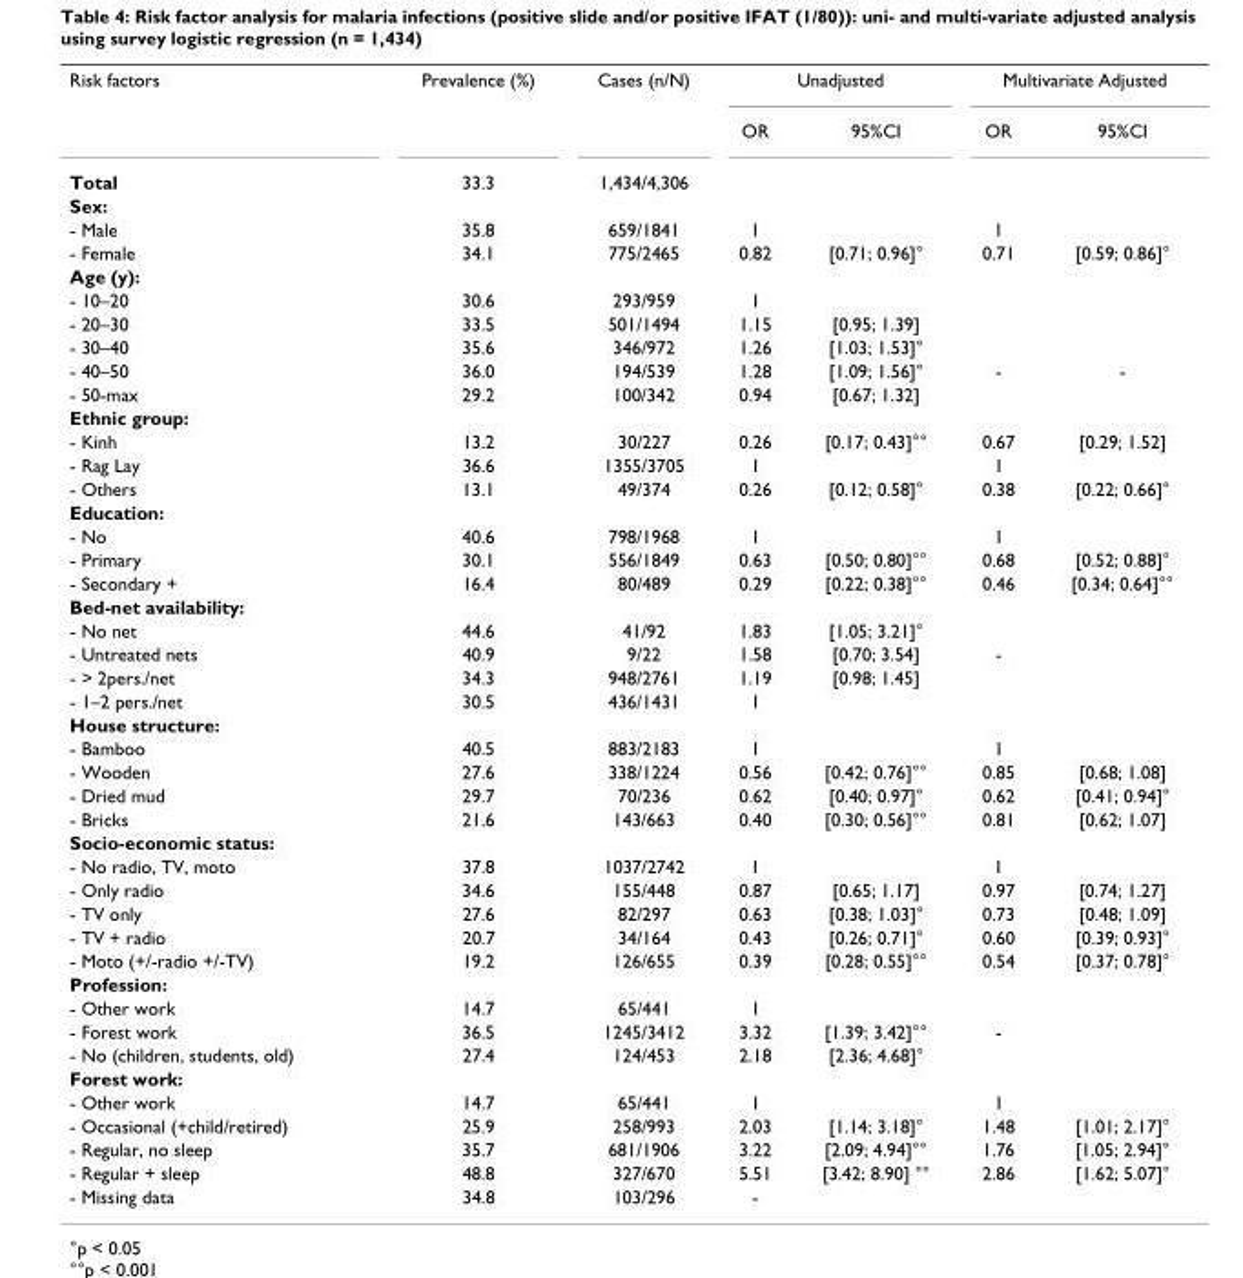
<table><tbody><tr><td rowspan="2">Risk factors</td><td>Prevalence (%)</td><td>Cases (n/N)</td><td colspan="2">Unadjusted</td><td colspan="2">Multivariate Adjusted</td></tr><tr><td></td><td></td><td>OR</td><td>95%CI</td><td>OR</td><td>95%CI</td></tr><tr><td>Total</td><td>33.3</td><td>1,434/4,306</td><td></td><td></td><td></td><td></td></tr><tr><td colspan="7">Sex:</td></tr><tr><td>- Male</td><td>35.8</td><td>659/1841</td><td>1</td><td></td><td>1</td><td></td></tr><tr><td>- Female</td><td>34.1</td><td>775/2465</td><td>0.82</td><td>[0.71; 0.96]°</td><td>0.71</td><td>[0.59; 0.86]°</td></tr><tr><td colspan="7">Age (y):</td></tr><tr><td>- 10–20</td><td>30.6</td><td>293/959</td><td>1</td><td></td><td></td><td></td></tr><tr><td>- 20–30</td><td>33.5</td><td>501/1494</td><td>1.15</td><td>[0.95; 1.39]</td><td></td><td></td></tr><tr><td>- 30–40</td><td>35.6</td><td>346/972</td><td>1.26</td><td>[1.03; 1.53]°</td><td></td><td></td></tr><tr><td>- 40–50</td><td>36.0</td><td>194/539</td><td>1.28</td><td>[1.09; 1.56]°</td><td>-</td><td>-</td></tr><tr><td>- 50-max</td><td>29.2</td><td>100/342</td><td>0.94</td><td>[0.67; 1.32]</td><td></td><td></td></tr><tr><td colspan="7">Ethnic group:</td></tr><tr><td>- Kinh</td><td>13.2</td><td>30/227</td><td>0.26</td><td>[0.17; 0.43]°°</td><td>0.67</td><td>[0.29; 1.52]</td></tr><tr><td>- Rag Lay</td><td>36.6</td><td>1355/3705</td><td>1</td><td></td><td>1</td><td></td></tr><tr><td>- Others</td><td>13.1</td><td>49/374</td><td>0.26</td><td>[0.12; 0.58]°</td><td>0.38</td><td>[0.22; 0.66]°</td></tr><tr><td colspan="7">Education:</td></tr><tr><td>- No</td><td>40.6</td><td>798/1968</td><td>1</td><td></td><td>1</td><td></td></tr><tr><td>- Primary</td><td>30.1</td><td>556/1849</td><td>0.63</td><td>[0.50; 0.80]°°</td><td>0.68</td><td>[0.52; 0.88]°</td></tr><tr><td>- Secondary +</td><td>16.4</td><td>80/489</td><td>0.29</td><td>[0.22; 0.38]°°</td><td>0.46</td><td>[0.34; 0.64]°°</td></tr><tr><td colspan="7">Bed-net availability:</td></tr><tr><td>- No net</td><td>44.6</td><td>41/92</td><td>1.83</td><td>[1.05; 3.21]°</td><td></td><td></td></tr><tr><td>- Untreated nets</td><td>40.9</td><td>9/22</td><td>1.58</td><td>[0.70; 3.54]</td><td>-</td><td></td></tr><tr><td>- &gt; 2pers./net</td><td>34.3</td><td>948/2761</td><td>1.19</td><td>[0.98; 1.45]</td><td></td><td></td></tr><tr><td>- 1–2 pers./net</td><td>30.5</td><td>436/1431</td><td>1</td><td></td><td></td><td></td></tr><tr><td colspan="7">House structure:</td></tr><tr><td>- Bamboo</td><td>40.5</td><td>883/2183</td><td>1</td><td></td><td>1</td><td></td></tr><tr><td>- Wooden</td><td>27.6</td><td>338/1224</td><td>0.56</td><td>[0.42; 0.76]°°</td><td>0.85</td><td>[0.68; 1.08]</td></tr><tr><td>- Dried mud</td><td>29.7</td><td>70/236</td><td>0.62</td><td>[0.40; 0.97]°</td><td>0.62</td><td>[0.41; 0.94]°</td></tr><tr><td>- Bricks</td><td>21.6</td><td>143/663</td><td>0.40</td><td>[0.30; 0.56]°°</td><td>0.81</td><td>[0.62; 1.07]</td></tr><tr><td colspan="7">Socio-economic status:</td></tr><tr><td>- No radio, TV, moto</td><td>37.8</td><td>1037/2742</td><td>1</td><td></td><td>1</td><td></td></tr><tr><td>- Only radio</td><td>34.6</td><td>155/448</td><td>0.87</td><td>[0.65; 1.17]</td><td>0.97</td><td>[0.74; 1.27]</td></tr><tr><td>- TV only</td><td>27.6</td><td>82/297</td><td>0.63</td><td>[0.38; 1.03]°</td><td>0.73</td><td>[0.48; 1.09]</td></tr><tr><td>- TV + radio</td><td>20.7</td><td>34/164</td><td>0.43</td><td>[0.26; 0.71]°</td><td>0.60</td><td>[0.39; 0.93]°</td></tr><tr><td>- Moto (+/-radio +/-TV)</td><td>19.2</td><td>126/655</td><td>0.39</td><td>[0.28; 0.55]°°</td><td>0.54</td><td>[0.37; 0.78]°</td></tr><tr><td colspan="7">Profession:</td></tr><tr><td>- Other work</td><td>14.7</td><td>65/441</td><td>1</td><td></td><td></td><td></td></tr><tr><td>- Forest work</td><td>36.5</td><td>1245/3412</td><td>3.32</td><td>[1.39; 3.42]°°</td><td>-</td><td></td></tr><tr><td>- No (children, students, old)</td><td>27.4</td><td>124/453</td><td>2.18</td><td>[2.36; 4.68]°</td><td></td><td></td></tr><tr><td colspan="7">Forest work:</td></tr><tr><td>- Other work</td><td>14.7</td><td>65/441</td><td>1</td><td></td><td>1</td><td></td></tr><tr><td>- Occasional (+child/retired)</td><td>25.9</td><td>258/993</td><td>2.03</td><td>[1.14; 3.18]°</td><td>1.48</td><td>[1.01; 2.17]°</td></tr><tr><td>- Regular, no sleep</td><td>35.7</td><td>681/1906</td><td>3.22</td><td>[2.09; 4.94]°°</td><td>1.76</td><td>[1.05; 2.94]°</td></tr><tr><td>- Regular + sleep</td><td>48.8</td><td>327/670</td><td>5.51</td><td>[3.42; 8.90] °°</td><td>2.86</td><td>[1.62; 5.07]°</td></tr><tr><td>- Missing data</td><td>34.8</td><td>103/296</td><td>-</td><td></td><td></td><td></td></tr></tbody></table>